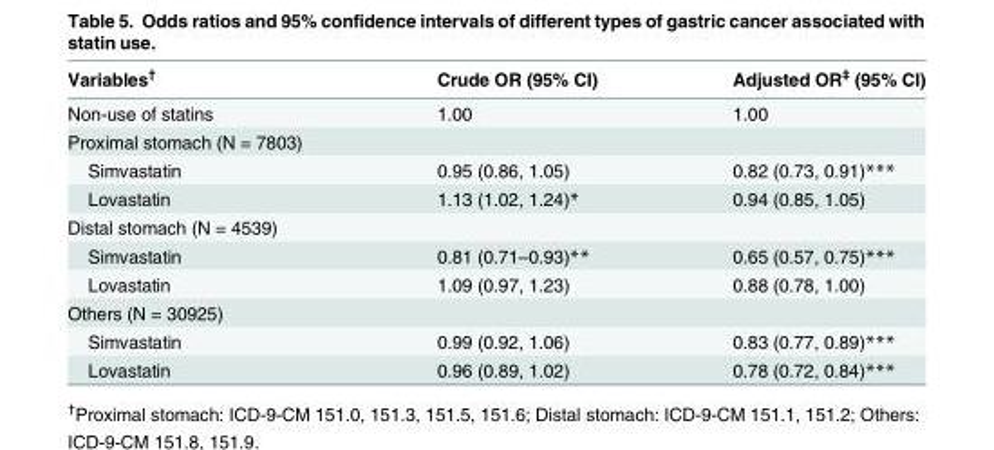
<table><thead><tr><td>Variables<sup>†</sup></td><td>Crude OR (95% CI)</td><td>Adjusted OR<sup>‡</sup> (95% CI)</td></tr></thead><tbody><tr><td>Non-use of statins</td><td>1.00</td><td>1.00</td></tr><tr><td colspan="3">Proximal stomach (N = 7803)</td></tr><tr><td>Simvastatin</td><td>0.95 (0.86, 1.05)</td><td>0.82 (0.73, 0.91)***</td></tr><tr><td>Lovastatin</td><td>1.13 (1.02, 1.24)*</td><td>0.94 (0.85, 1.05)</td></tr><tr><td colspan="3">Distal stomach (N = 4539)</td></tr><tr><td>Simvastatin</td><td>0.81 (0.71–0.93)**</td><td>0.65 (0.57, 0.75)***</td></tr><tr><td>Lovastatin</td><td>1.09 (0.97, 1.23)</td><td>0.88 (0.78, 1.00)</td></tr><tr><td colspan="3">Others (N = 30925)</td></tr><tr><td>Simvastatin</td><td>0.99 (0.92, 1.06)</td><td>0.83 (0.77, 0.89)***</td></tr><tr><td>Lovastatin</td><td>0.96 (0.89, 1.02)</td><td>0.78 (0.72, 0.84)***</td></tr></tbody></table>